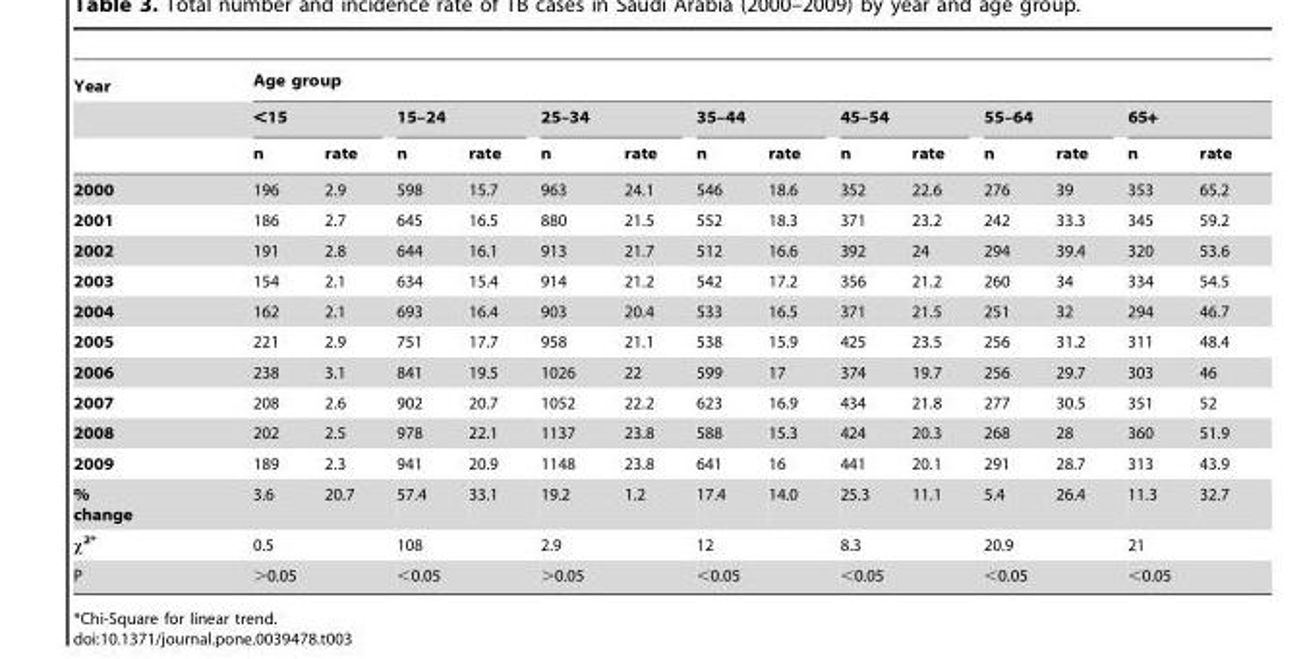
<table><thead><tr><td rowspan="3">Year</td><td colspan="14">Age group</td></tr><tr><td colspan="2">&lt;15</td><td colspan="2">15–24</td><td colspan="2">25–34</td><td colspan="2">35–44</td><td colspan="2">45–54</td><td colspan="2">55–64</td><td colspan="2">65+</td></tr><tr><td>n</td><td>rate</td><td>n</td><td>rate</td><td>n</td><td>rate</td><td>n</td><td>rate</td><td>n</td><td>rate</td><td>n</td><td>rate</td><td>n</td><td>rate</td></tr></thead><tbody><tr><td>2000</td><td>196</td><td>2.9</td><td>598</td><td>15.7</td><td>963</td><td>24.1</td><td>546</td><td>18.6</td><td>352</td><td>22.6</td><td>276</td><td>39</td><td>353</td><td>65.2</td></tr><tr><td>2001</td><td>186</td><td>2.7</td><td>645</td><td>16.5</td><td>880</td><td>21.5</td><td>552</td><td>18.3</td><td>371</td><td>23.2</td><td>242</td><td>33.3</td><td>345</td><td>59.2</td></tr><tr><td>2002</td><td>191</td><td>2.8</td><td>644</td><td>16.1</td><td>913</td><td>21.7</td><td>512</td><td>16.6</td><td>392</td><td>24</td><td>294</td><td>39.4</td><td>320</td><td>53.6</td></tr><tr><td>2003</td><td>154</td><td>2.1</td><td>634</td><td>15.4</td><td>914</td><td>21.2</td><td>542</td><td>17.2</td><td>356</td><td>21.2</td><td>260</td><td>34</td><td>334</td><td>54.5</td></tr><tr><td>2004</td><td>162</td><td>2.1</td><td>693</td><td>16.4</td><td>903</td><td>20.4</td><td>533</td><td>16.5</td><td>371</td><td>21.5</td><td>251</td><td>32</td><td>294</td><td>46.7</td></tr><tr><td>2005</td><td>221</td><td>2.9</td><td>751</td><td>17.7</td><td>958</td><td>21.1</td><td>538</td><td>15.9</td><td>425</td><td>23.5</td><td>256</td><td>31.2</td><td>311</td><td>48.4</td></tr><tr><td>2006</td><td>238</td><td>3.1</td><td>841</td><td>19.5</td><td>1026</td><td>22</td><td>599</td><td>17</td><td>374</td><td>19.7</td><td>256</td><td>29.7</td><td>303</td><td>46</td></tr><tr><td>2007</td><td>208</td><td>2.6</td><td>902</td><td>20.7</td><td>1052</td><td>22.2</td><td>623</td><td>16.9</td><td>434</td><td>21.8</td><td>277</td><td>30.5</td><td>351</td><td>52</td></tr><tr><td>2008</td><td>202</td><td>2.5</td><td>978</td><td>22.1</td><td>1137</td><td>23.8</td><td>588</td><td>15.3</td><td>424</td><td>20.3</td><td>268</td><td>28</td><td>360</td><td>51.9</td></tr><tr><td>2009</td><td>189</td><td>2.3</td><td>941</td><td>20.9</td><td>1148</td><td>23.8</td><td>641</td><td>16</td><td>441</td><td>20.1</td><td>291</td><td>28.7</td><td>313</td><td>43.9</td></tr><tr><td>% change</td><td>3.6</td><td>20.7</td><td>57.4</td><td>33.1</td><td>19.2</td><td>1.2</td><td>17.4</td><td>14.0</td><td>25.3</td><td>11.1</td><td>5.4</td><td>26.4</td><td>11.3</td><td>32.7</td></tr><tr><td>χ<sup>2</sup>*</td><td colspan="2">0.5</td><td colspan="2">108</td><td colspan="2">2.9</td><td colspan="2">12</td><td colspan="2">8.3</td><td colspan="2">20.9</td><td colspan="2">21</td></tr><tr><td>P</td><td colspan="2">&gt;0.05</td><td colspan="2">&lt;0.05</td><td colspan="2">&gt;0.05</td><td colspan="2">&lt;0.05</td><td colspan="2">&lt;0.05</td><td colspan="2">&lt;0.05</td><td colspan="2">&lt;0.05</td></tr></tbody></table>